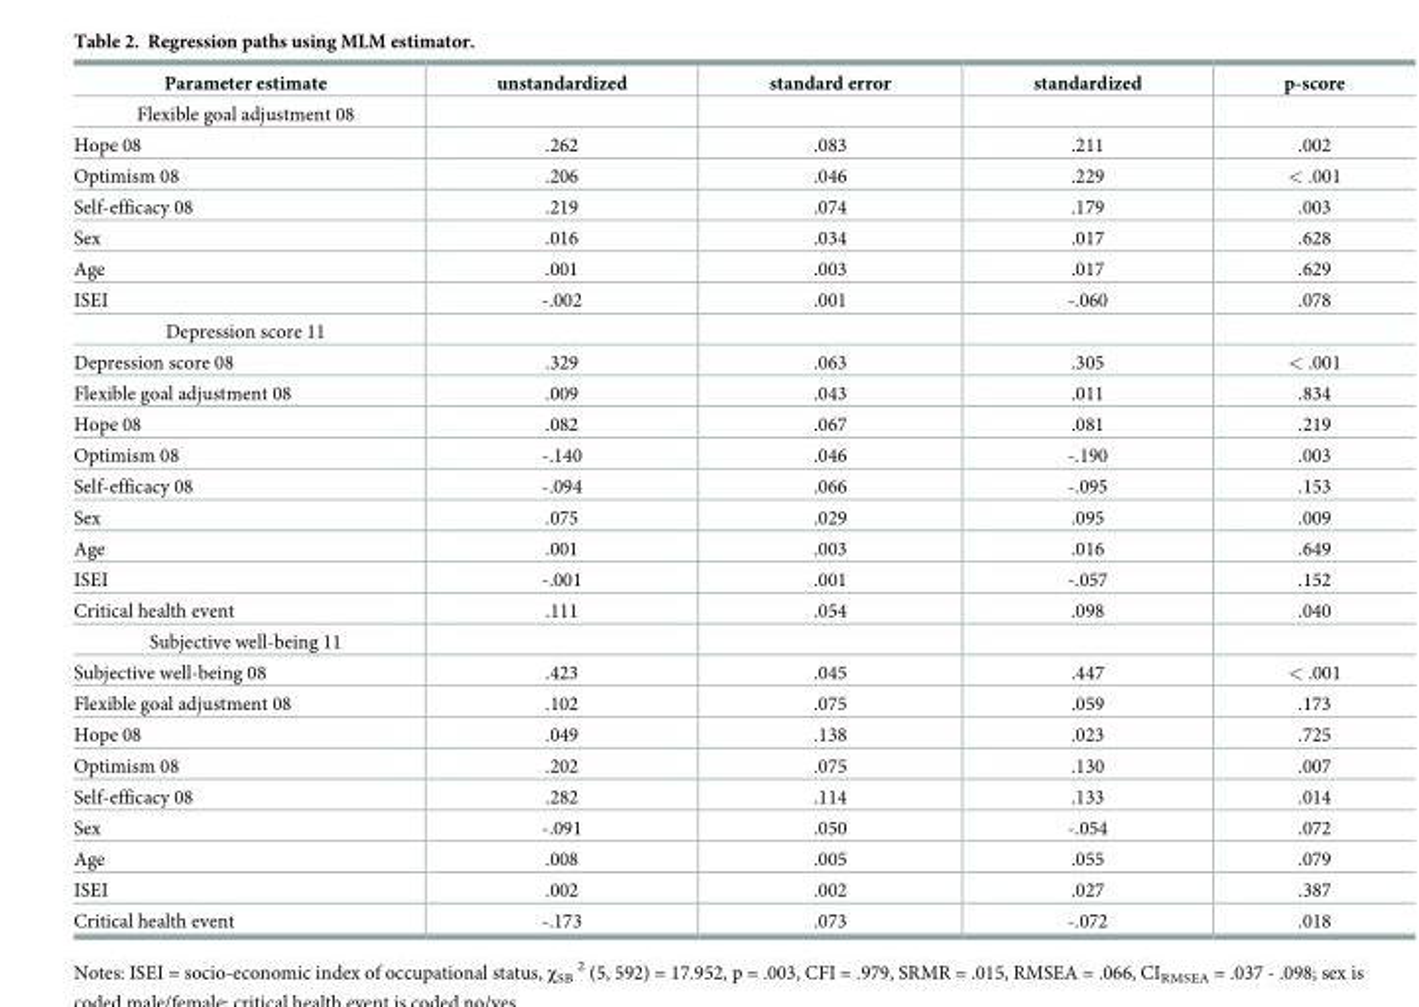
<table><thead><tr><td>Parameter estimate</td><td>unstandardized</td><td>standard error</td><td>standardized</td><td>p-score</td></tr></thead><tbody><tr><td colspan="5">Flexible goal adjustment 08</td></tr><tr><td>Hope 08</td><td>.262</td><td>.083</td><td>.211</td><td>.002</td></tr><tr><td>Optimism 08</td><td>.206</td><td>.046</td><td>.229</td><td>&lt; .001</td></tr><tr><td>Self-efficacy 08</td><td>.219</td><td>.074</td><td>.179</td><td>.003</td></tr><tr><td>Sex</td><td>.016</td><td>.034</td><td>.017</td><td>.628</td></tr><tr><td>Age</td><td>.001</td><td>.003</td><td>.017</td><td>.629</td></tr><tr><td>ISEI</td><td>-.002</td><td>.001</td><td>-.060</td><td>.078</td></tr><tr><td colspan="5">Depression score 11</td></tr><tr><td>Depression score 08</td><td>.329</td><td>.063</td><td>.305</td><td>&lt; .001</td></tr><tr><td>Flexible goal adjustment 08</td><td>.009</td><td>.043</td><td>.011</td><td>.834</td></tr><tr><td>Hope 08</td><td>.082</td><td>.067</td><td>.081</td><td>.219</td></tr><tr><td>Optimism 08</td><td>-.140</td><td>.046</td><td>-.190</td><td>.003</td></tr><tr><td>Self-efficacy 08</td><td>-.094</td><td>.066</td><td>-.095</td><td>.153</td></tr><tr><td>Sex</td><td>.075</td><td>.029</td><td>.095</td><td>.009</td></tr><tr><td>Age</td><td>.001</td><td>.003</td><td>.016</td><td>.649</td></tr><tr><td>ISEI</td><td>-.001</td><td>.001</td><td>-.057</td><td>.152</td></tr><tr><td>Critical health event</td><td>.111</td><td>.054</td><td>.098</td><td>.040</td></tr><tr><td colspan="5">Subjective well-being 11</td></tr><tr><td>Subjective well-being 08</td><td>.423</td><td>.045</td><td>.447</td><td>&lt; .001</td></tr><tr><td>Flexible goal adjustment 08</td><td>.102</td><td>.075</td><td>.059</td><td>.173</td></tr><tr><td>Hope 08</td><td>.049</td><td>.138</td><td>.023</td><td>.725</td></tr><tr><td>Optimism 08</td><td>.202</td><td>.075</td><td>.130</td><td>.007</td></tr><tr><td>Self-efficacy 08</td><td>.282</td><td>.114</td><td>.133</td><td>.014</td></tr><tr><td>Sex</td><td>-.091</td><td>.050</td><td>-.054</td><td>.072</td></tr><tr><td>Age</td><td>.008</td><td>.005</td><td>.055</td><td>.079</td></tr><tr><td>ISEI</td><td>.002</td><td>.002</td><td>.027</td><td>.387</td></tr><tr><td>Critical health event</td><td>-.173</td><td>.073</td><td>-.072</td><td>.018</td></tr></tbody></table>